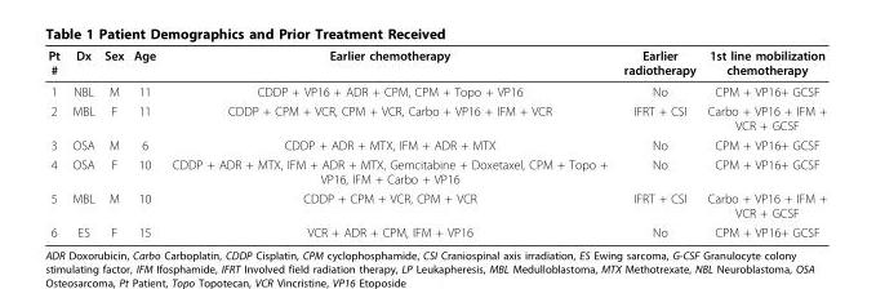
<table><thead><tr><td>Pt #</td><td>Dx</td><td>Sex</td><td>Age</td><td>Earlier chemotherapy</td><td>Earlier radiotherapy</td><td>1st line mobilization chemotherapy</td></tr></thead><tbody><tr><td>1</td><td>NBL</td><td>M</td><td>11</td><td>CDDP + VP16 + ADR + CPM, CPM + Topo + VP16</td><td>No</td><td>CPM + VP16+ GCSF</td></tr><tr><td>2</td><td>MBL</td><td>F</td><td>11</td><td>CDDP + CPM + VCR, CPM + VCR, Carbo + VP16 + IFM + VCR</td><td>IFRT + CSI</td><td>Carbo + VP16 + IFM + VCR + GCSF</td></tr><tr><td>3</td><td>OSA</td><td>M</td><td>6</td><td>CDDP + ADR + MTX, IFM + ADR + MTX</td><td>No</td><td>CPM + VP16+ GCSF</td></tr><tr><td>4</td><td>OSA</td><td>F</td><td>10</td><td>CDDP + ADR + MTX, IFM + ADR + MTX, Gemcitabine + Doxetaxel, CPM + Topo + VP16, IFM + Carbo + VP16</td><td>No</td><td>CPM + VP16+ GCSF</td></tr><tr><td>5</td><td>MBL</td><td>M</td><td>10</td><td>CDDP + CPM + VCR, CPM + VCR</td><td>IFRT + CSI</td><td>Carbo + VP16 + IFM + VCR + GCSF</td></tr><tr><td>6</td><td>ES</td><td>F</td><td>15</td><td>VCR + ADR + CPM, IFM + VP16</td><td>No</td><td>CPM + VP16+ GCSF</td></tr></tbody></table>